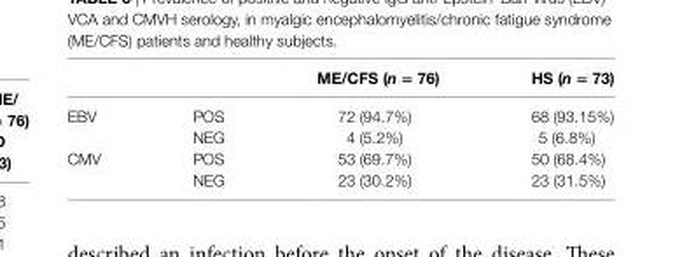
<table><thead><tr><td></td><td></td><td>Me/cFs (n = 76)</td><td>hs (n = 73)</td></tr></thead><tbody><tr><td rowspan="2">EBV</td><td>POS</td><td>72 (94.7%)</td><td>68 (93.15%)</td></tr><tr><td>NEG</td><td>4 (5.2%)</td><td>5 (6.8%)</td></tr><tr><td rowspan="2">CMV</td><td>POS</td><td>53 (69.7%)</td><td>50 (68.4%)</td></tr><tr><td>NEG</td><td>23 (30.2%)</td><td>23 (31.5%)</td></tr></tbody></table>